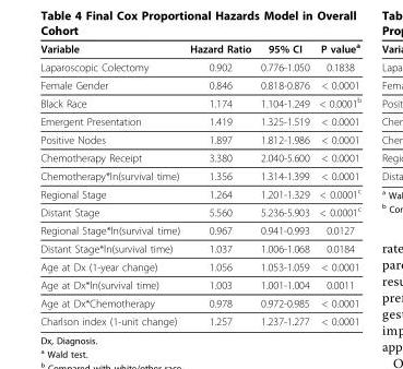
<table><thead><tr><td>Variable</td><td>Hazard Ratio</td><td>95% CI</td><td>P value<sup>a</sup></td></tr></thead><tbody><tr><td>Laparoscopic Colectomy</td><td>0.902</td><td>0.776-1.050</td><td>0.1838</td></tr><tr><td>Female Gender</td><td>0.846</td><td>0.818-0.876</td><td>&lt; 0.0001</td></tr><tr><td>Black Race</td><td>1.174</td><td>1.104-1.249</td><td>&lt; 0.0001<sup>b</sup></td></tr><tr><td>Emergent Presentation</td><td>1.419</td><td>1.325-1.519</td><td>&lt; 0.0001</td></tr><tr><td>Positive Nodes</td><td>1.897</td><td>1.812-1.986</td><td>&lt; 0.0001</td></tr><tr><td>Chemotherapy Receipt</td><td>3.380</td><td>2.040-5.600</td><td>&lt; 0.0001</td></tr><tr><td>Chemotherapy*ln(survival time)</td><td>1.356</td><td>1.314-1.399</td><td>&lt; 0.0001</td></tr><tr><td>Regional Stage</td><td>1.264</td><td>1.201-1.329</td><td>&lt; 0.0001<sup>c</sup></td></tr><tr><td>Distant Stage</td><td>5.560</td><td>5.236-5.903</td><td>&lt; 0.0001<sup>c</sup></td></tr><tr><td>Regional Stage*ln(survival time)</td><td>0.967</td><td>0.941-0.993</td><td>0.0127</td></tr><tr><td>Distant Stage*ln(survival time)</td><td>1.037</td><td>1.006-1.068</td><td>0.0184</td></tr><tr><td>Age at Dx (1-year change)</td><td>1.056</td><td>1.053-1.059</td><td>&lt; 0.0001</td></tr><tr><td>Age at Dx*ln(survival time)</td><td>1.003</td><td>1.001-1.004</td><td>0.0011</td></tr><tr><td>Age at Dx*Chemotherapy</td><td>0.978</td><td>0.972-0.985</td><td>&lt; 0.0001</td></tr><tr><td>Charlson index (1-unit change)</td><td>1.257</td><td>1.237-1.277</td><td>&lt; 0.0001</td></tr></tbody></table>